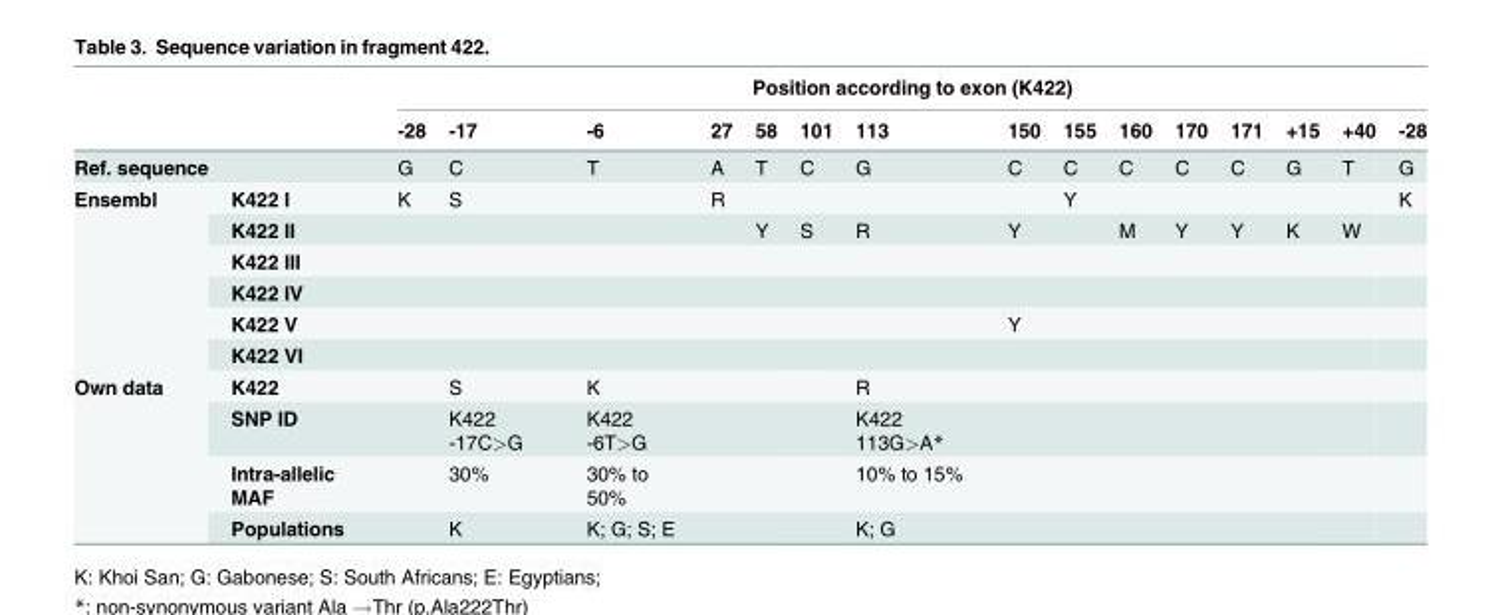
<table><thead><tr><td rowspan="2"></td><td rowspan="2"></td><td colspan="15">Position according to exon (K422)</td></tr><tr><td>-28</td><td>-17</td><td>-6</td><td>27</td><td>58</td><td>101</td><td>113</td><td>150</td><td>155</td><td>160</td><td>170</td><td>171</td><td>+15</td><td>+40</td><td>-28</td></tr></thead><tbody><tr><td>Ref. sequence</td><td></td><td>G</td><td>C</td><td>T</td><td>A</td><td>T</td><td>C</td><td>G</td><td>C</td><td>C</td><td>C</td><td>C</td><td>C</td><td>G</td><td>T</td><td>G</td></tr><tr><td rowspan="6">Ensembl</td><td>K422 I</td><td>K</td><td>S</td><td></td><td>R</td><td></td><td></td><td></td><td></td><td>Y</td><td></td><td></td><td></td><td></td><td></td><td>K</td></tr><tr><td>K422 II</td><td></td><td></td><td></td><td></td><td>Y</td><td>S</td><td>R</td><td>Y</td><td></td><td>M</td><td>Y</td><td>Y</td><td>K</td><td>W</td><td></td></tr><tr><td>K422 III</td><td></td><td></td><td></td><td></td><td></td><td></td><td></td><td></td><td></td><td></td><td></td><td></td><td></td><td></td><td></td></tr><tr><td>K422 IV</td><td></td><td></td><td></td><td></td><td></td><td></td><td></td><td></td><td></td><td></td><td></td><td></td><td></td><td></td><td></td></tr><tr><td>K422 V</td><td></td><td></td><td></td><td></td><td></td><td></td><td></td><td>Y</td><td></td><td></td><td></td><td></td><td></td><td></td><td></td></tr><tr><td>K422 VI</td><td></td><td></td><td></td><td></td><td></td><td></td><td></td><td></td><td></td><td></td><td></td><td></td><td></td><td></td><td></td></tr><tr><td rowspan="4">Own data</td><td>K422</td><td></td><td>S</td><td>K</td><td></td><td></td><td></td><td>R</td><td></td><td></td><td></td><td></td><td></td><td></td><td></td><td></td></tr><tr><td>SNP ID</td><td></td><td>K422 -17C&gt;G</td><td>K422 -6T&gt;G</td><td></td><td></td><td></td><td>K422 113G&gt;A*</td><td></td><td></td><td></td><td></td><td></td><td></td><td></td><td></td></tr><tr><td>Intra-allelic MAF</td><td></td><td>30%</td><td>30% to 50%</td><td></td><td></td><td></td><td>10% to 15%</td><td></td><td></td><td></td><td></td><td></td><td></td><td></td><td></td></tr><tr><td>Populations</td><td></td><td>K</td><td>K; G; S; E</td><td></td><td></td><td></td><td>K; G</td><td></td><td></td><td></td><td></td><td></td><td></td><td></td><td></td></tr></tbody></table>